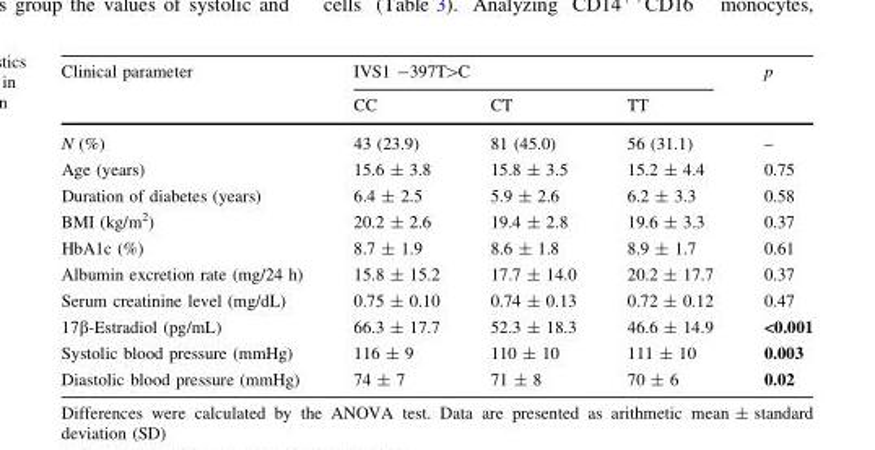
<table><thead><tr><td rowspan="2">Clinical parameter</td><td colspan="3">IVS1 -397T&gt;C</td><td rowspan="2">p</td></tr><tr><td>CC</td><td>CT</td><td>TT</td></tr></thead><tbody><tr><td>N (%)</td><td>43 (23.9)</td><td>81 (45.0)</td><td>56 (31.1)</td><td>–</td></tr><tr><td>Age (years)</td><td>15.6 ± 3.8</td><td>15.8 ± 3.5</td><td>15.2 ± 4.4</td><td>0.75</td></tr><tr><td>Duration of diabetes (years)</td><td>6.4 ± 2.5</td><td>5.9 ± 2.6</td><td>6.2 ± 3.3</td><td>0.58</td></tr><tr><td>BMI (kg/m<sup>2</sup>)</td><td>20.2 ± 2.6</td><td>19.4 ± 2.8</td><td>19.6 ± 3.3</td><td>0.37</td></tr><tr><td>HbA1c (%)</td><td>8.7 ± 1.9</td><td>8.6 ± 1.8</td><td>8.9 ± 1.7</td><td>0.61</td></tr><tr><td>Albumin excretion rate (mg/24 h)</td><td>15.8 ± 15.2</td><td>17.7 ± 14.0</td><td>20.2 ± 17.7</td><td>0.37</td></tr><tr><td>Serum creatinine level (mg/dL)</td><td>0.75 ± 0.10</td><td>0.74 ± 0.13</td><td>0.72 ± 0.12</td><td>0.47</td></tr><tr><td>17β-Estradiol (pg/mL)</td><td>66.3 ± 17.7</td><td>52.3 ± 18.3</td><td>46.6 ± 14.9</td><td>&lt;0.001</td></tr><tr><td>Systolic blood pressure (mmHg)</td><td>116 ± 9</td><td>110 ± 10</td><td>111 ± 10</td><td>0.003</td></tr><tr><td>Diastolic blood pressure (mmHg)</td><td>74 ± 7</td><td>71 ± 8</td><td>70 ± 6</td><td>0.02</td></tr></tbody></table>